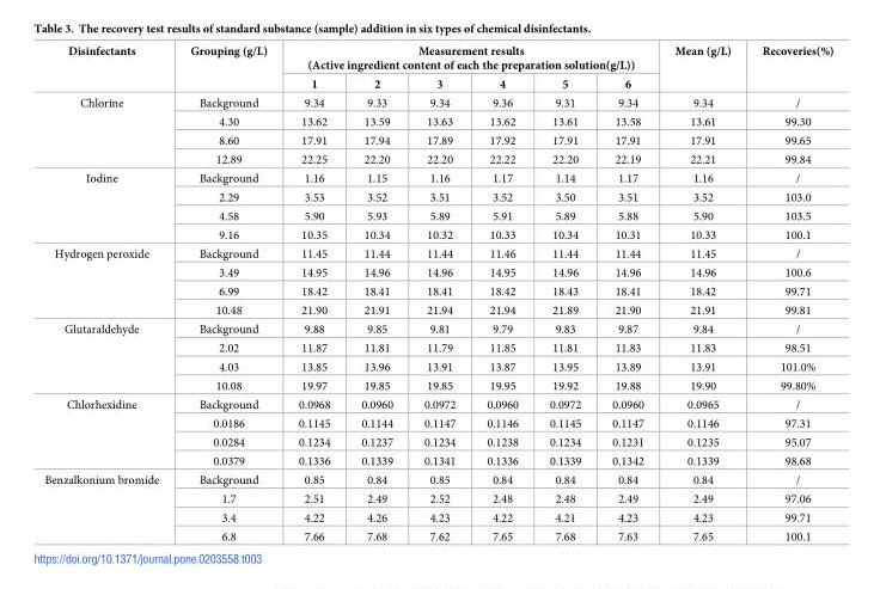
<table><thead><tr><td rowspan="2">Disinfectants</td><td rowspan="2">Grouping (g/L)</td><td colspan="6">Measurement results (Active ingredient content of each the preparation solution(g/L))</td><td rowspan="2">Mean (g/L)</td><td rowspan="2">Recoveries(%)</td></tr><tr><td>1</td><td>2</td><td>3</td><td>4</td><td>5</td><td>6</td></tr></thead><tbody><tr><td rowspan="4">Chlorine</td><td>Background</td><td>9.34</td><td>9.33</td><td>9.34</td><td>9.36</td><td>9.31</td><td>9.34</td><td>9.34</td><td>/</td></tr><tr><td>4.30</td><td>13.62</td><td>13.59</td><td>13.63</td><td>13.62</td><td>13.61</td><td>13.58</td><td>13.61</td><td>99.30</td></tr><tr><td>8.60</td><td>17.91</td><td>17.94</td><td>17.89</td><td>17.92</td><td>17.91</td><td>17.91</td><td>17.91</td><td>99.65</td></tr><tr><td>12.89</td><td>22.25</td><td>22.20</td><td>22.20</td><td>22.22</td><td>22.20</td><td>22.19</td><td>22.21</td><td>99.84</td></tr><tr><td rowspan="4">Iodine</td><td>Background</td><td>1.16</td><td>1.15</td><td>1.16</td><td>1.17</td><td>1.14</td><td>1.17</td><td>1.16</td><td>/</td></tr><tr><td>2.29</td><td>3.53</td><td>3.52</td><td>3.51</td><td>3.52</td><td>3.50</td><td>3.51</td><td>3.52</td><td>103.0</td></tr><tr><td>4.58</td><td>5.90</td><td>5.93</td><td>5.89</td><td>5.91</td><td>5.89</td><td>5.88</td><td>5.90</td><td>103.5</td></tr><tr><td>9.16</td><td>10.35</td><td>10.34</td><td>10.32</td><td>10.33</td><td>10.34</td><td>10.31</td><td>10.33</td><td>100.1</td></tr><tr><td rowspan="4">Hydrogen peroxide</td><td>Background</td><td>11.45</td><td>11.44</td><td>11.44</td><td>11.46</td><td>11.44</td><td>11.44</td><td>11.45</td><td>/</td></tr><tr><td>3.49</td><td>14.95</td><td>14.96</td><td>14.96</td><td>14.95</td><td>14.96</td><td>14.96</td><td>14.96</td><td>100.6</td></tr><tr><td>6.99</td><td>18.42</td><td>18.41</td><td>18.41</td><td>18.42</td><td>18.43</td><td>18.41</td><td>18.42</td><td>99.71</td></tr><tr><td>10.48</td><td>21.90</td><td>21.91</td><td>21.94</td><td>21.94</td><td>21.89</td><td>21.90</td><td>21.91</td><td>99.81</td></tr><tr><td rowspan="4">Glutaraldehyde</td><td>Background</td><td>9.88</td><td>9.85</td><td>9.81</td><td>9.79</td><td>9.83</td><td>9.87</td><td>9.84</td><td>/</td></tr><tr><td>2.02</td><td>11.87</td><td>11.81</td><td>11.79</td><td>11.85</td><td>11.81</td><td>11.83</td><td>11.83</td><td>98.51</td></tr><tr><td>4.03</td><td>13.85</td><td>13.96</td><td>13.91</td><td>13.87</td><td>13.95</td><td>13.89</td><td>13.91</td><td>101.0%</td></tr><tr><td>10.08</td><td>19.97</td><td>19.85</td><td>19.85</td><td>19.95</td><td>19.92</td><td>19.88</td><td>19.90</td><td>99.80%</td></tr><tr><td rowspan="4">Chlorhexidine</td><td>Background</td><td>0.0968</td><td>0.0960</td><td>0.0972</td><td>0.0960</td><td>0.0972</td><td>0.0960</td><td>0.0965</td><td>/</td></tr><tr><td>0.0186</td><td>0.1145</td><td>0.1144</td><td>0.1147</td><td>0.1146</td><td>0.1145</td><td>0.1147</td><td>0.1146</td><td>97.31</td></tr><tr><td>0.0284</td><td>0.1234</td><td>0.1237</td><td>0.1234</td><td>0.1238</td><td>0.1234</td><td>0.1231</td><td>0.1235</td><td>95.07</td></tr><tr><td>0.0379</td><td>0.1336</td><td>0.1339</td><td>0.1341</td><td>0.1336</td><td>0.1339</td><td>0.1342</td><td>0.1339</td><td>98.68</td></tr><tr><td rowspan="4">Benzalkonium bromide</td><td>Background</td><td>0.85</td><td>0.84</td><td>0.85</td><td>0.84</td><td>0.84</td><td>0.84</td><td>0.84</td><td>/</td></tr><tr><td>1.7</td><td>2.51</td><td>2.49</td><td>2.52</td><td>2.48</td><td>2.48</td><td>2.49</td><td>2.49</td><td>97.06</td></tr><tr><td>3.4</td><td>4.22</td><td>4.26</td><td>4.23</td><td>4.22</td><td>4.21</td><td>4.23</td><td>4.23</td><td>99.71</td></tr><tr><td>6.8</td><td>7.66</td><td>7.68</td><td>7.62</td><td>7.65</td><td>7.68</td><td>7.63</td><td>7.65</td><td>100.1</td></tr></tbody></table>